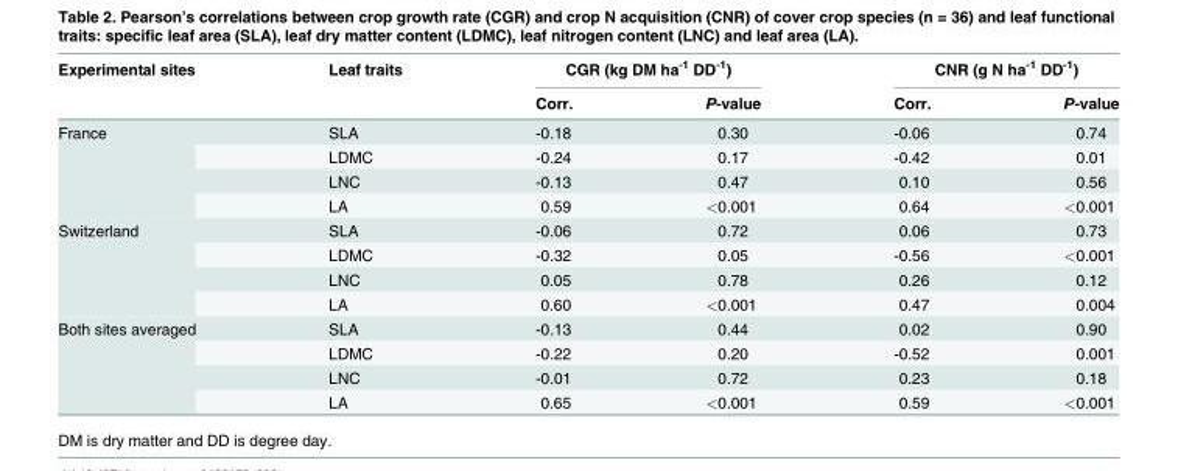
<table><thead><tr><td rowspan="2">Experimental sites</td><td rowspan="2">Leaf traits</td><td colspan="2">CGR (kg DM ha<sup>-1</sup> DD<sup>-1</sup>)</td><td colspan="2">CNR (g N ha<sup>-1</sup> DD<sup>-1</sup>)</td></tr><tr><td>Corr.</td><td>P-value</td><td>Corr.</td><td>P-value</td></tr></thead><tbody><tr><td rowspan="4">France</td><td>SLA</td><td>-0.18</td><td>0.30</td><td>-0.06</td><td>0.74</td></tr><tr><td>LDMC</td><td>-0.24</td><td>0.17</td><td>-0.42</td><td>0.01</td></tr><tr><td>LNC</td><td>-0.13</td><td>0.47</td><td>0.10</td><td>0.56</td></tr><tr><td>LA</td><td>0.59</td><td>&lt;0.001</td><td>0.64</td><td>&lt;0.001</td></tr><tr><td rowspan="4">Switzerland</td><td>SLA</td><td>-0.06</td><td>0.72</td><td>0.06</td><td>0.73</td></tr><tr><td>LDMC</td><td>-0.32</td><td>0.05</td><td>-0.56</td><td>&lt;0.001</td></tr><tr><td>LNC</td><td>0.05</td><td>0.78</td><td>0.26</td><td>0.12</td></tr><tr><td>LA</td><td>0.60</td><td>&lt;0.001</td><td>0.47</td><td>0.004</td></tr><tr><td rowspan="4">Both sites averaged</td><td>SLA</td><td>-0.13</td><td>0.44</td><td>0.02</td><td>0.90</td></tr><tr><td>LDMC</td><td>-0.22</td><td>0.20</td><td>-0.52</td><td>0.001</td></tr><tr><td>LNC</td><td>-0.01</td><td>0.72</td><td>0.23</td><td>0.18</td></tr><tr><td>LA</td><td>0.65</td><td>&lt;0.001</td><td>0.59</td><td>&lt;0.001</td></tr></tbody></table>